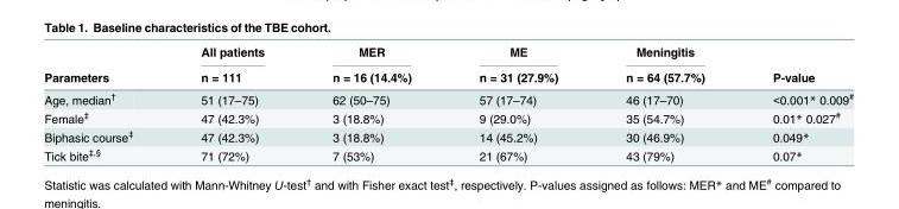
<table><thead><tr><td rowspan="2">Parameters</td><td rowspan="2">All patients n = 111</td><td rowspan="2">MER n = 16 (14.4%)</td><td rowspan="2">ME n = 31 (27.9%)</td><td rowspan="2">Meningitis n = 64 (57.7%)</td><td rowspan="2">P-value</td></tr><tr></tr></thead><tbody><tr><td>Age, median<sup>†</sup></td><td>51 (17–75)</td><td>62 (50–75)</td><td>57 (17–74)</td><td>46 (17–70)</td><td>&lt;0.001* 0.009<sup>#</sup></td></tr><tr><td>Female<sup>‡</sup></td><td>47 (42.3%)</td><td>3 (18.8%)</td><td>9 (29.0%)</td><td>35 (54.7%)</td><td>0.01* 0.027<sup>#</sup></td></tr><tr><td>Biphasic course<sup>‡</sup></td><td>47 (42.3%)</td><td>3 (18.8%)</td><td>14 (45.2%)</td><td>30 (46.9%)</td><td>0.049*</td></tr><tr><td>Tick bite<sup>‡,§</sup></td><td>71 (72%)</td><td>7 (53%)</td><td>21 (67%)</td><td>43 (79%)</td><td>0.07*</td></tr></tbody></table>